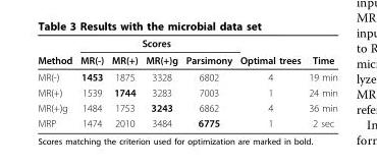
<table><thead><tr><td rowspan="2">Method</td><td colspan="4">Scores</td><td rowspan="2">Optimal trees</td><td rowspan="2">Time</td></tr><tr><td>MR(-)</td><td>MR(+)</td><td>MR(+)g</td><td>Parsimony</td></tr></thead><tbody><tr><td>MR(-)</td><td>1453</td><td>1875</td><td>3328</td><td>6802</td><td>4</td><td>19 min</td></tr><tr><td>MR(+)</td><td>1539</td><td>1744</td><td>3283</td><td>7003</td><td>1</td><td>24 min</td></tr><tr><td>MR(+)g</td><td>1484</td><td>1753</td><td>3243</td><td>6862</td><td>4</td><td>36 min</td></tr><tr><td>MRP</td><td>1474</td><td>2010</td><td>3484</td><td>6775</td><td>1</td><td>2 sec</td></tr></tbody></table>